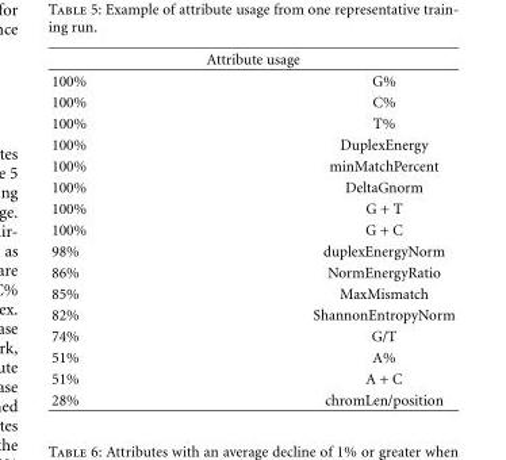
<table><thead><tr><td colspan="2">Attribute usage</td></tr><tr><td>100%</td><td>G%</td></tr></thead><tbody><tr><td>100%</td><td>C%</td></tr><tr><td>100%</td><td>T%</td></tr><tr><td>100%</td><td>DuplexEnergy</td></tr><tr><td>100%</td><td>minMatchPercent</td></tr><tr><td>100%</td><td>DeltaGnorm</td></tr><tr><td>100%</td><td>G + T</td></tr><tr><td>100%</td><td>G + C</td></tr><tr><td>98%</td><td>duplexEnergyNorm</td></tr><tr><td>86%</td><td>NormEnergyRatio</td></tr><tr><td>85%</td><td>MaxMismatch</td></tr><tr><td>82%</td><td>ShannonEntropyNorm</td></tr><tr><td>74%</td><td>G/T</td></tr><tr><td>51%</td><td>A%</td></tr><tr><td>51%</td><td>A + C</td></tr><tr><td>28%</td><td>chromLen/position</td></tr></tbody></table>